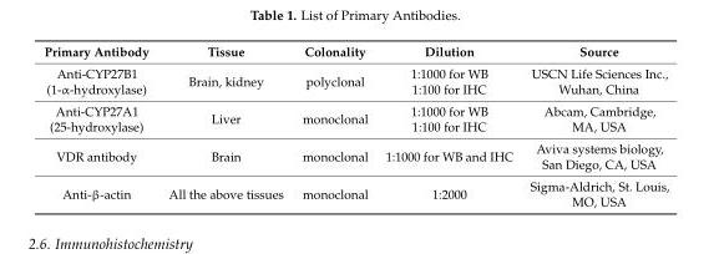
<table><thead><tr><td>Primary Antibody</td><td>Tissue</td><td>Colonality</td><td>Dilution</td><td>Source</td></tr></thead><tbody><tr><td>Anti-CYP27B1 (1-α-hydroxylase)</td><td>Brain, kidney</td><td>polyclonal</td><td>1:1000 for WB 1:100 for IHC</td><td>USCN Life Sciences Inc., Wuhan, China</td></tr><tr><td>Anti-CYP27A1 (25-hydroxylase)</td><td>Liver</td><td>monoclonal</td><td>1:1000 for WB 1:100 for IHC</td><td>Abcam, Cambridge, MA, USA</td></tr><tr><td>VDR antibody</td><td>Brain</td><td>monoclonal</td><td>1:1000 for WB and IHC</td><td>Aviva systems biology, San Diego, CA, USA</td></tr><tr><td>Anti-β-actin</td><td>All the above tissues</td><td>monoclonal</td><td>1:2000</td><td>Sigma-Aldrich, St. Louis, MO, USA</td></tr></tbody></table>